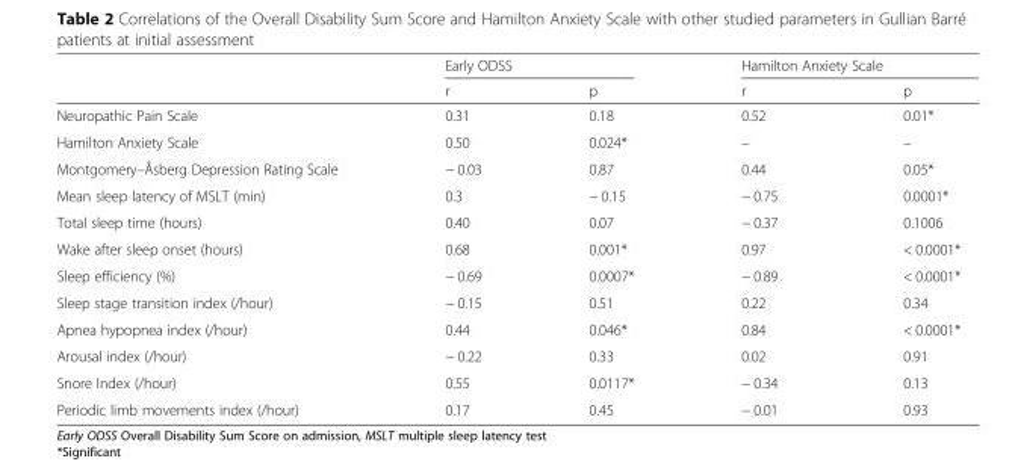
<table><thead><tr><td rowspan="2"></td><td colspan="2">Early ODSS</td><td colspan="2">Hamilton Anxiety Scale</td></tr><tr><td>r</td><td>p</td><td>r</td><td>p</td></tr></thead><tbody><tr><td>Neuropathic Pain Scale</td><td>0.31</td><td>0.18</td><td>0.52</td><td>0.01*</td></tr><tr><td>Hamilton Anxiety Scale</td><td>0.50</td><td>0.024*</td><td>–</td><td>–</td></tr><tr><td>Montgomery–Åsberg Depression Rating Scale</td><td>− 0.03</td><td>0.87</td><td>0.44</td><td>0.05*</td></tr><tr><td>Mean sleep latency of MSLT (min)</td><td>0.3</td><td>− 0.15</td><td>− 0.75</td><td>0.0001*</td></tr><tr><td>Total sleep time (hours)</td><td>0.40</td><td>0.07</td><td>− 0.37</td><td>0.1006</td></tr><tr><td>Wake after sleep onset (hours)</td><td>0.68</td><td>0.001*</td><td>0.97</td><td>&lt; 0.0001*</td></tr><tr><td>Sleep efficiency (%)</td><td>− 0.69</td><td>0.0007*</td><td>− 0.89</td><td>&lt; 0.0001*</td></tr><tr><td>Sleep stage transition index (/hour)</td><td>− 0.15</td><td>0.51</td><td>0.22</td><td>0.34</td></tr><tr><td>Apnea hypopnea index (/hour)</td><td>0.44</td><td>0.046*</td><td>0.84</td><td>&lt; 0.0001*</td></tr><tr><td>Arousal index (/hour)</td><td>− 0.22</td><td>0.33</td><td>0.02</td><td>0.91</td></tr><tr><td>Snore Index (/hour)</td><td>0.55</td><td>0.0117*</td><td>− 0.34</td><td>0.13</td></tr><tr><td>Periodic limb movements index (/hour)</td><td>0.17</td><td>0.45</td><td>− 0.01</td><td>0.93</td></tr></tbody></table>